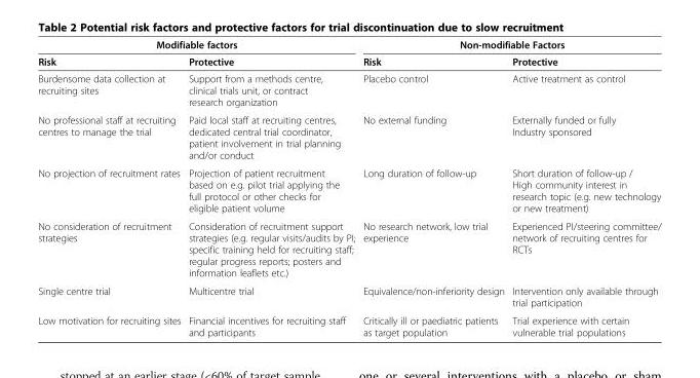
<table><thead><tr><td colspan="2">Modifiable factors</td><td colspan="2">Non-modifiable Factors</td></tr><tr><td>Risk</td><td>Protective</td><td>Risk</td><td>Protective</td></tr></thead><tbody><tr><td>Burdensome data collection at recruiting sites</td><td>Support from a methods centre, clinical trials unit, or contract research organization</td><td>Placebo control</td><td>Active treatment as control</td></tr><tr><td>No professional staff at recruiting centres to manage the trial</td><td>Paid local staff at recruiting centres, dedicated central trial coordinator, patient involvement in trial planning and/or conduct</td><td>No external funding</td><td>Externally funded or fully Industry sponsored</td></tr><tr><td>No projection of recruitment rates</td><td>Projection of patient recruitment based on e.g. pilot trial applying the full protocol or other checks for eligible patient volume</td><td>Long duration of follow-up</td><td>Short duration of follow-up / High community interest in research topic (e.g. new technology or new treatment)</td></tr><tr><td>No consideration of recruitment strategies</td><td>Consideration of recruitment support strategies (e.g. regular visits/audits by PI; specific training held for recruiting staff; regular progress reports; posters and information leaflets etc.)</td><td>No research network, low trial experience</td><td>Experienced PI/steering committee/ network of recruiting centres for RCTs</td></tr><tr><td>Single centre trial</td><td>Multicentre trial</td><td>Equivalence/non-inferiority design</td><td>Intervention only available through trial participation</td></tr><tr><td>Low motivation for recruiting sites</td><td>Financial incentives for recruiting staff and participants</td><td>Critically ill or paediatric patients as target population</td><td>Trial experience with certain vulnerable trial populations</td></tr></tbody></table>